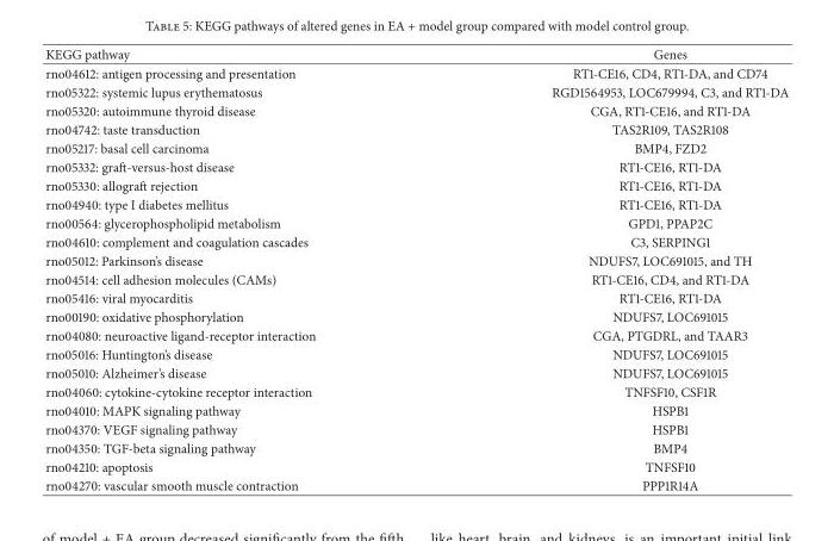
<table><thead><tr><td>KEGG pathway</td><td>Genes</td></tr></thead><tbody><tr><td>rno04612: antigen processing and presentation</td><td>RT1-CE16, CD4, RT1-DA, and CD74</td></tr><tr><td>rno05322: systemic lupus erythematosus</td><td>RGD1564953, LOC679994, C3, and RT1-DA</td></tr><tr><td>rno05320: autoimmune thyroid disease</td><td>CGA, RT1-CE16, and RT1-DA</td></tr><tr><td>rno04742: taste transduction</td><td>TAS2R109, TAS2R108</td></tr><tr><td>rno05217: basal cell carcinoma</td><td>BMP4, FZD2</td></tr><tr><td>rno05332: graft-versus-host disease</td><td>RT1-CE16, RT1-DA</td></tr><tr><td>rno05330: allograft rejection</td><td>RT1-CE16, RT1-DA</td></tr><tr><td>rno04940: type I diabetes mellitus</td><td>RT1-CE16, RT1-DA</td></tr><tr><td>rno00564: glycerophospholipid metabolism</td><td>GPD1, PPAP2C</td></tr><tr><td>rno04610: complement and coagulation cascades</td><td>C3, SERPING1</td></tr><tr><td>rno05012: Parkinson’s disease</td><td>NDUFS7, LOC691015, and TH</td></tr><tr><td>rno04514: cell adhesion molecules (CAMs)</td><td>RT1-CE16, CD4, and RT1-DA</td></tr><tr><td>rno05416: viral myocarditis</td><td>RT1-CE16, RT1-DA</td></tr><tr><td>rno00190: oxidative phosphorylation</td><td>NDUFS7, LOC691015</td></tr><tr><td>rno04080: neuroactive ligand-receptor interaction</td><td>CGA, PTGDRL, and TAAR3</td></tr><tr><td>rno05016: Huntington’s disease</td><td>NDUFS7, LOC691015</td></tr><tr><td>rno05010: Alzheimer’s disease</td><td>NDUFS7, LOC691015</td></tr><tr><td>rno04060: cytokine-cytokine receptor interaction</td><td>TNFSF10, CSF1R</td></tr><tr><td>rno04010: MAPK signaling pathway</td><td>HSPB1</td></tr><tr><td>rno04370: VEGF signaling pathway</td><td>HSPB1</td></tr><tr><td>rno04350: TGF-beta signaling pathway</td><td>BMP4</td></tr><tr><td>rno04210: apoptosis</td><td>TNFSF10</td></tr><tr><td>rno04270: vascular smooth muscle contraction</td><td>PPP1R14A</td></tr></tbody></table>